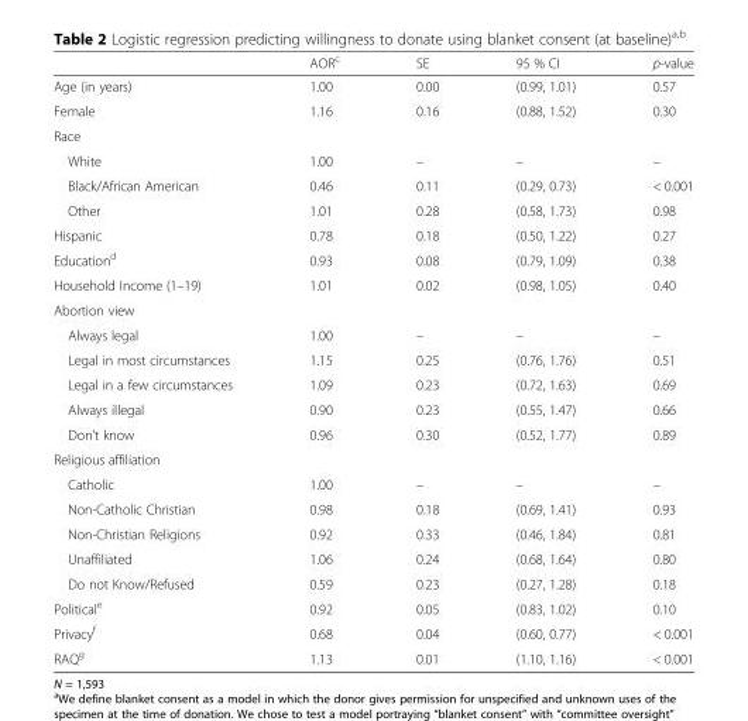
<table><thead><tr><td></td><td>AOR<sup>c</sup></td><td>SE</td><td>95 % CI</td><td>p-value</td></tr></thead><tbody><tr><td>Age (in years)</td><td>1.00</td><td>0.00</td><td>(0.99, 1.01)</td><td>0.57</td></tr><tr><td>Female</td><td>1.16</td><td>0.16</td><td>(0.88, 1.52)</td><td>0.30</td></tr><tr><td colspan="5">Race</td></tr><tr><td>White</td><td>1.00</td><td>–</td><td>–</td><td>–</td></tr><tr><td>Black/African American</td><td>0.46</td><td>0.11</td><td>(0.29, 0.73)</td><td>&lt; 0.001</td></tr><tr><td>Other</td><td>1.01</td><td>0.28</td><td>(0.58, 1.73)</td><td>0.98</td></tr><tr><td>Hispanic</td><td>0.78</td><td>0.18</td><td>(0.50, 1.22)</td><td>0.27</td></tr><tr><td>Education<sup>d</sup></td><td>0.93</td><td>0.08</td><td>(0.79, 1.09)</td><td>0.38</td></tr><tr><td>Household Income (1–19)</td><td>1.01</td><td>0.02</td><td>(0.98, 1.05)</td><td>0.40</td></tr><tr><td colspan="5">Abortion view</td></tr><tr><td>Always legal</td><td>1.00</td><td>–</td><td>–</td><td>–</td></tr><tr><td>Legal in most circumstances</td><td>1.15</td><td>0.25</td><td>(0.76, 1.76)</td><td>0.51</td></tr><tr><td>Legal in a few circumstances</td><td>1.09</td><td>0.23</td><td>(0.72, 1.63)</td><td>0.69</td></tr><tr><td>Always illegal</td><td>0.90</td><td>0.23</td><td>(0.55, 1.47)</td><td>0.66</td></tr><tr><td>Don’t know</td><td>0.96</td><td>0.30</td><td>(0.52, 1.77)</td><td>0.89</td></tr><tr><td colspan="5">Religious affiliation</td></tr><tr><td>Catholic</td><td>1.00</td><td>–</td><td>–</td><td>–</td></tr><tr><td>Non-Catholic Christian</td><td>0.98</td><td>0.18</td><td>(0.69, 1.41)</td><td>0.93</td></tr><tr><td>Non-Christian Religions</td><td>0.92</td><td>0.33</td><td>(0.46, 1.84)</td><td>0.81</td></tr><tr><td>Unaffiliated</td><td>1.06</td><td>0.24</td><td>(0.68, 1.64)</td><td>0.80</td></tr><tr><td>Do not Know/Refused</td><td>0.59</td><td>0.23</td><td>(0.27, 1.28)</td><td>0.18</td></tr><tr><td>Political<sup>e</sup></td><td>0.92</td><td>0.05</td><td>(0.83, 1.02)</td><td>0.10</td></tr><tr><td>Privacy<sup>f</sup></td><td>0.68</td><td>0.04</td><td>(0.60, 0.77)</td><td>&lt; 0.001</td></tr><tr><td>RAQ<sup>g</sup></td><td>1.13</td><td>0.01</td><td>(1.10, 1.16)</td><td>&lt; 0.001</td></tr></tbody></table>